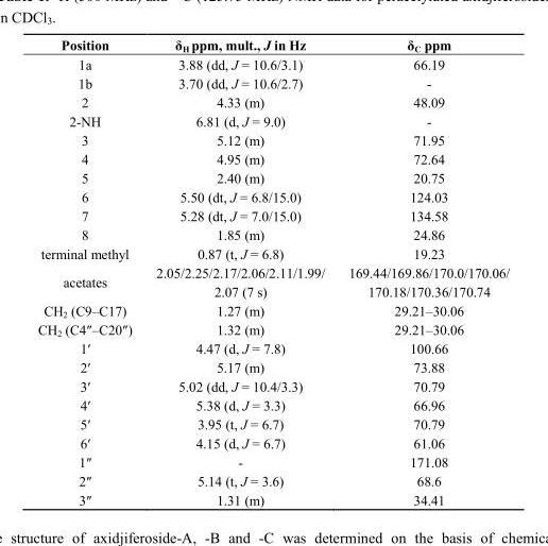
<table><thead><tr><td>Position</td><td>δ<sub>H</sub> ppm, mult., J in Hz</td><td>δ<sub>C</sub> ppm</td></tr></thead><tbody><tr><td>1a</td><td>3.88 (dd, J = 10.6/3.1)</td><td>66.19</td></tr><tr><td>1b</td><td>3.70 (dd, J = 10.6/2.7)</td><td>-</td></tr><tr><td>2</td><td>4.33 (m)</td><td>48.09</td></tr><tr><td>2-NH</td><td>6.81 (d, J = 9.0)</td><td>-</td></tr><tr><td>3</td><td>5.12 (m)</td><td>71.95</td></tr><tr><td>4</td><td>4.95 (m)</td><td>72.64</td></tr><tr><td>5</td><td>2.40 (m)</td><td>20.75</td></tr><tr><td>6</td><td>5.50 (dt, J = 6.8/15.0)</td><td>124.03</td></tr><tr><td>7</td><td>5.28 (dt, J = 7.0/15.0)</td><td>134.58</td></tr><tr><td>8</td><td>1.85 (m)</td><td>24.86</td></tr><tr><td>terminal methyl</td><td>0.87 (t, J = 6.8)</td><td>19.23</td></tr><tr><td>acetates</td><td>2.05/2.25/2.17/2.06/2.11/1.99/ 2.07 (7 s)</td><td>169.44/169.86/170.0/170.06/ 170.18/170.36/170.74</td></tr><tr><td>CH<sub>2</sub> (C9–C17)</td><td>1.27 (m)</td><td>29.21–30.06</td></tr><tr><td>CH<sub>2</sub> (C4″–C20″)</td><td>1.32 (m)</td><td>29.21–30.06</td></tr><tr><td>1′</td><td>4.47 (d, J = 7.8)</td><td>100.66</td></tr><tr><td>2′</td><td>5.17 (m)</td><td>73.88</td></tr><tr><td>3′</td><td>5.02 (dd, J = 10.4/3.3)</td><td>70.79</td></tr><tr><td>4′</td><td>5.38 (d, J = 3.3)</td><td>66.96</td></tr><tr><td>5′</td><td>3.95 (t, J = 6.7)</td><td>70.79</td></tr><tr><td>6′</td><td>4.15 (d, J = 6.7)</td><td>61.06</td></tr><tr><td>1″</td><td>-</td><td>171.08</td></tr><tr><td>2″</td><td>5.14 (t, J = 3.6)</td><td>68.6</td></tr><tr><td>3″</td><td>1.31 (m)</td><td>34.41</td></tr></tbody></table>